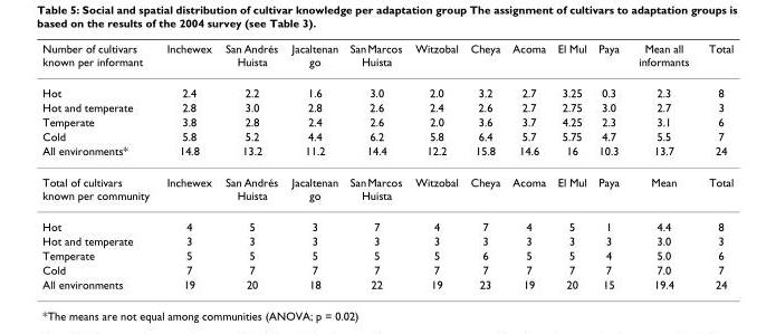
<table><thead><tr><td>Number of cultivars known per informant</td><td>Inchewex</td><td>San Andrés Huista</td><td>Jacaltenan go</td><td>San Marcos Huista</td><td>Witzobal</td><td>Cheya</td><td>Acoma</td><td>El Mul</td><td>Paya</td><td>Mean all informants</td><td>Total</td></tr></thead><tbody><tr><td>Hot</td><td>2.4</td><td>2.2</td><td>1.6</td><td>3.0</td><td>2.0</td><td>3.2</td><td>2.7</td><td>3.25</td><td>0.3</td><td>2.3</td><td>8</td></tr><tr><td>Hot and temperate</td><td>2.8</td><td>3.0</td><td>2.8</td><td>2.6</td><td>2.4</td><td>2.6</td><td>2.7</td><td>2.75</td><td>3.0</td><td>2.7</td><td>3</td></tr><tr><td>Temperate</td><td>3.8</td><td>2.8</td><td>2.4</td><td>2.6</td><td>2.0</td><td>3.6</td><td>3.7</td><td>4.25</td><td>2.3</td><td>3.1</td><td>6</td></tr><tr><td>Cold</td><td>5.8</td><td>5.2</td><td>4.4</td><td>6.2</td><td>5.8</td><td>6.4</td><td>5.7</td><td>5.75</td><td>4.7</td><td>5.5</td><td>7</td></tr><tr><td>All environments*</td><td>14.8</td><td>13.2</td><td>11.2</td><td>14.4</td><td>12.2</td><td>15.8</td><td>14.6</td><td>16</td><td>10.3</td><td>13.7</td><td>24</td></tr><tr><td>Total of cultivars known per community</td><td>Inchewex</td><td>San Andrés Huista</td><td>Jacaltenan go</td><td>San Marcos Huista</td><td>Witzobal</td><td>Cheya</td><td>Acoma</td><td>El Mul</td><td>Paya</td><td>Mean</td><td>Total</td></tr><tr><td>Hot</td><td>4</td><td>5</td><td>3</td><td>7</td><td>4</td><td>7</td><td>4</td><td>5</td><td>1</td><td>4.4</td><td>8</td></tr><tr><td>Hot and temperate</td><td>3</td><td>3</td><td>3</td><td>3</td><td>3</td><td>3</td><td>3</td><td>3</td><td>3</td><td>3.0</td><td>3</td></tr><tr><td>Temperate</td><td>5</td><td>5</td><td>5</td><td>5</td><td>5</td><td>6</td><td>5</td><td>5</td><td>4</td><td>5.0</td><td>6</td></tr><tr><td>Cold</td><td>7</td><td>7</td><td>7</td><td>7</td><td>7</td><td>7</td><td>7</td><td>7</td><td>7</td><td>7.0</td><td>7</td></tr><tr><td>All environments</td><td>19</td><td>20</td><td>18</td><td>22</td><td>19</td><td>23</td><td>19</td><td>20</td><td>15</td><td>19.4</td><td>24</td></tr></tbody></table>